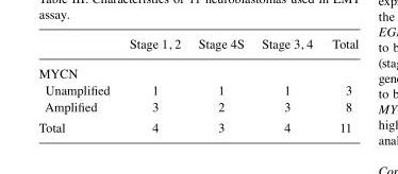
<table><thead><tr><td></td><td>Stage 1, 2</td><td>Stage 4S</td><td>Stage 3, 4</td><td>Total</td></tr></thead><tbody><tr><td colspan="5">MYCN</td></tr><tr><td>Unamplified</td><td>1</td><td>1</td><td>1</td><td>3</td></tr><tr><td>Amplified</td><td>3</td><td>2</td><td>3</td><td>8</td></tr><tr><td>Total</td><td>4</td><td>3</td><td>4</td><td>11</td></tr></tbody></table>